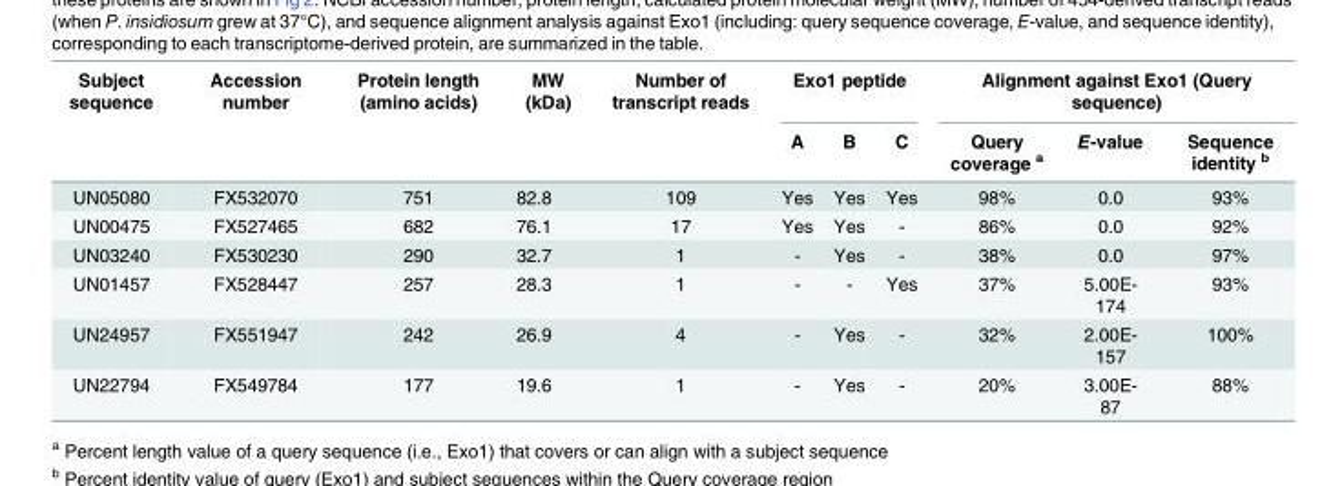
<table><thead><tr><td rowspan="2">Subject sequence</td><td rowspan="2">Accession number</td><td rowspan="2">Protein length (amino acids)</td><td rowspan="2">MW (kDa)</td><td rowspan="2">Number of transcript reads</td><td colspan="3">Exo1 peptide</td><td colspan="3">Alignment against Exo1 (Query sequence)</td></tr><tr><td>A</td><td>B</td><td>C</td><td>Query coverage <sup>a</sup></td><td>E-value</td><td>Sequence identity <sup>b</sup></td></tr></thead><tbody><tr><td>UN05080</td><td>FX532070</td><td>751</td><td>82.8</td><td>109</td><td>Yes</td><td>Yes</td><td>Yes</td><td>98%</td><td>0.0</td><td>93%</td></tr><tr><td>UN00475</td><td>FX527465</td><td>682</td><td>76.1</td><td>17</td><td>Yes</td><td>Yes</td><td>-</td><td>86%</td><td>0.0</td><td>92%</td></tr><tr><td>UN03240</td><td>FX530230</td><td>290</td><td>32.7</td><td>1</td><td>-</td><td>Yes</td><td>-</td><td>38%</td><td>0.0</td><td>97%</td></tr><tr><td>UN01457</td><td>FX528447</td><td>257</td><td>28.3</td><td>1</td><td>-</td><td>-</td><td>Yes</td><td>37%</td><td>5.00E- 174</td><td>93%</td></tr><tr><td>UN24957</td><td>FX551947</td><td>242</td><td>26.9</td><td>4</td><td>-</td><td>Yes</td><td>-</td><td>32%</td><td>2.00E- 157</td><td>100%</td></tr><tr><td>UN22794</td><td>FX549784</td><td>177</td><td>19.6</td><td>1</td><td>-</td><td>Yes</td><td>-</td><td>20%</td><td>3.00E- 87</td><td>88%</td></tr></tbody></table>